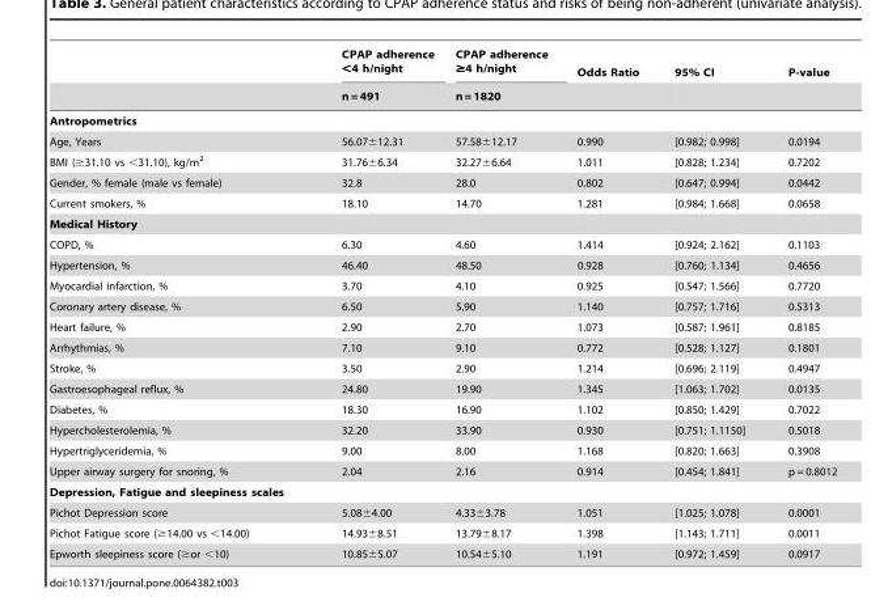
<table><thead><tr><td rowspan="2"></td><td rowspan="2">CPAP adherence &lt;4 h/night n = 491</td><td rowspan="2">CPAP adherence ≥4 h/night n = 1820</td><td rowspan="2">Odds Ratio</td><td rowspan="2">95% CI</td><td rowspan="2">P-value</td></tr><tr></tr></thead><tbody><tr><td colspan="6">Antropometrics</td></tr><tr><td>Age, Years</td><td>56.07±12.31</td><td>57.58±12.17</td><td>0.990</td><td>[0.982; 0.998]</td><td>0.0194</td></tr><tr><td>BMI (≥31.10 vs &lt;31.10), kg/m<sup>2</sup></td><td>31.76±6.34</td><td>32.27±6.64</td><td>1.011</td><td>[0.828; 1.234]</td><td>0.7202</td></tr><tr><td>Gender, % female (male vs female)</td><td>32.8</td><td>28.0</td><td>0.802</td><td>[0.647; 0.994]</td><td>0.0442</td></tr><tr><td>Current smokers, %</td><td>18.10</td><td>14.70</td><td>1.281</td><td>[0.984; 1.668]</td><td>0.0658</td></tr><tr><td colspan="6">Medical History</td></tr><tr><td>COPD, %</td><td>6.30</td><td>4.60</td><td>1.414</td><td>[0.924; 2.162]</td><td>0.1103</td></tr><tr><td>Hypertension, %</td><td>46.40</td><td>48.50</td><td>0.928</td><td>[0.760; 1.134]</td><td>0.4656</td></tr><tr><td>Myocardial infarction, %</td><td>3.70</td><td>4.10</td><td>0.925</td><td>[0.547; 1.566]</td><td>0.7720</td></tr><tr><td>Coronary artery disease, %</td><td>6.50</td><td>5.90</td><td>1.140</td><td>[0.757; 1.716]</td><td>0.5313</td></tr><tr><td>Heart failure, %</td><td>2.90</td><td>2.70</td><td>1.073</td><td>[0.587; 1.961]</td><td>0.8185</td></tr><tr><td>Arrhythmias, %</td><td>7.10</td><td>9.10</td><td>0.772</td><td>[0.528; 1.127]</td><td>0.1801</td></tr><tr><td>Stroke, %</td><td>3.50</td><td>2.90</td><td>1.214</td><td>[0.696; 2.119]</td><td>0.4947</td></tr><tr><td>Gastroesophageal reflux, %</td><td>24.80</td><td>19.90</td><td>1.345</td><td>[1.063; 1.702]</td><td>0.0135</td></tr><tr><td>Diabetes, %</td><td>18.30</td><td>16.90</td><td>1.102</td><td>[0.850; 1.429]</td><td>0.7022</td></tr><tr><td>Hypercholesterolemia, %</td><td>32.20</td><td>33.90</td><td>0.930</td><td>[0.751; 1.1150]</td><td>0.5018</td></tr><tr><td>Hypertriglyceridemia, %</td><td>9.00</td><td>8.00</td><td>1.168</td><td>[0.820; 1.663]</td><td>0.3908</td></tr><tr><td>Upper airway surgery for snoring, %</td><td>2.04</td><td>2.16</td><td>0.914</td><td>[0.454; 1.841]</td><td>p = 0.8012</td></tr><tr><td colspan="6">Depression, Fatigue and sleepiness scales</td></tr><tr><td>Pichot Depression score</td><td>5.08±4.00</td><td>4.33±3.78</td><td>1.051</td><td>[1.025; 1.078]</td><td>0.0001</td></tr><tr><td>Pichot Fatigue score (≥14.00 vs &lt;14.00)</td><td>14.93±8.51</td><td>13.79±8.17</td><td>1.398</td><td>[1.143; 1.711]</td><td>0.0011</td></tr><tr><td>Epworth sleepiness score (≥or &lt;10)</td><td>10.85±5.07</td><td>10.54±5.10</td><td>1.191</td><td>[0.972; 1.459]</td><td>0.0917</td></tr></tbody></table>